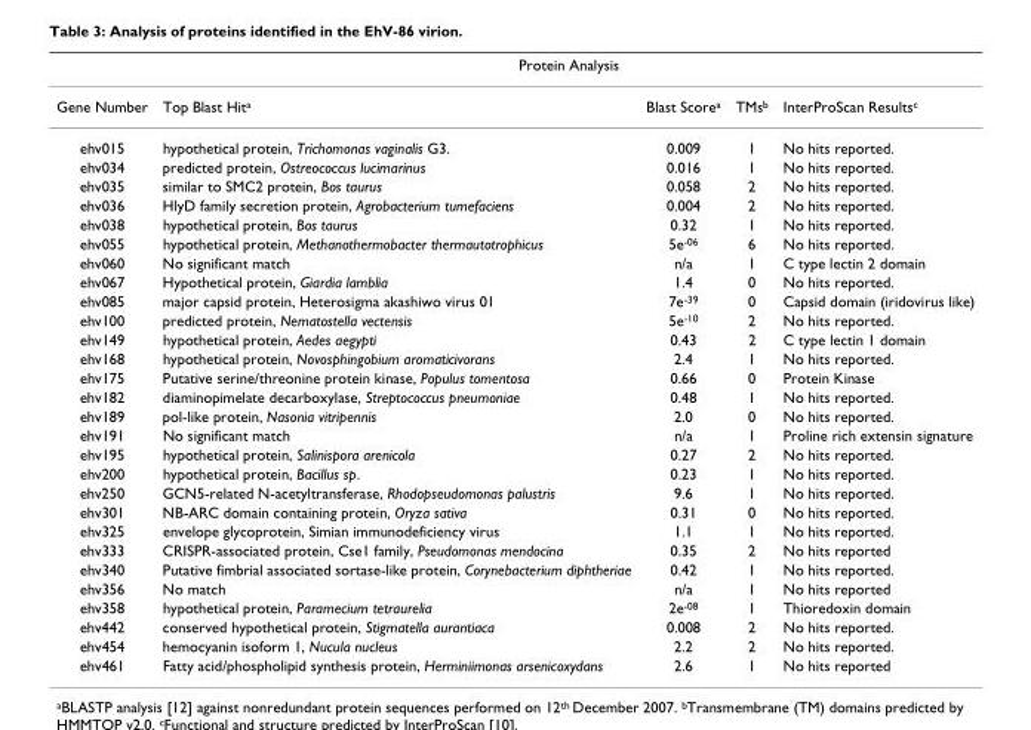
<table><thead><tr><td rowspan="2">Gene Number</td><td colspan="4">Protein Analysis</td></tr><tr><td>Top Blast Hit<sup>a</sup></td><td>Blast Score<sup>a</sup></td><td>TMs<sup>b</sup></td><td>InterProScan Results<sup>c</sup></td></tr></thead><tbody><tr><td>ehv015</td><td>hypothetical protein, Trichomonas vaginalis G3.</td><td>0.009</td><td>1</td><td>No hits reported.</td></tr><tr><td>ehv034</td><td>predicted protein, Ostreococcus lucimarinus</td><td>0.016</td><td>1</td><td>No hits reported.</td></tr><tr><td>ehv035</td><td>similar to SMC2 protein, Bos taurus</td><td>0.058</td><td>2</td><td>No hits reported.</td></tr><tr><td>ehv036</td><td>HlyD family secretion protein, Agrobacterium tumefaciens</td><td>0.004</td><td>2</td><td>No hits reported.</td></tr><tr><td>ehv038</td><td>hypothetical protein, Bos taurus</td><td>0.32</td><td>1</td><td>No hits reported.</td></tr><tr><td>ehv055</td><td>hypothetical protein, Methanothermobacter thermautotrophicus</td><td>5e<sup>-06</sup></td><td>6</td><td>No hits reported.</td></tr><tr><td>ehv060</td><td>No significant match</td><td>n/a</td><td>1</td><td>C type lectin 2 domain</td></tr><tr><td>ehv067</td><td>Hypothetical protein, Giardia lamblia</td><td>1.4</td><td>0</td><td>No hits reported.</td></tr><tr><td>ehv085</td><td>major capsid protein, Heterosigma akashiwo virus 01</td><td>7e<sup>-39</sup></td><td>0</td><td>Capsid domain (iridovirus like)</td></tr><tr><td>ehv100</td><td>predicted protein, Nematostella vectensis</td><td>5e<sup>-10</sup></td><td>2</td><td>No hits reported.</td></tr><tr><td>ehv149</td><td>hypothetical protein, Aedes aegypti</td><td>0.43</td><td>2</td><td>C type lectin 1 domain</td></tr><tr><td>ehv168</td><td>hypothetical protein, Novosphingobium aromaticivorans</td><td>2.4</td><td>1</td><td>No hits reported.</td></tr><tr><td>ehv175</td><td>Putative serine/threonine protein kinase, Populus tomentosa</td><td>0.66</td><td>0</td><td>Protein Kinase</td></tr><tr><td>ehv182</td><td>diaminopimelate decarboxylase, Streptococcus pneumoniae</td><td>0.48</td><td>1</td><td>No hits reported.</td></tr><tr><td>ehv189</td><td>pol-like protein, Nasonia vitripennis</td><td>2.0</td><td>0</td><td>No hits reported.</td></tr><tr><td>ehv191</td><td>No significant match</td><td>n/a</td><td>1</td><td>Proline rich extensin signature</td></tr><tr><td>ehv195</td><td>hypothetical protein, Salinispora arenicola</td><td>0.27</td><td>2</td><td>No hits reported.</td></tr><tr><td>ehv200</td><td>hypothetical protein, Bacillus sp.</td><td>0.23</td><td>1</td><td>No hits reported.</td></tr><tr><td>ehv250</td><td>GCN5-related N-acetyltransferase, Rhodopseudomonas palustris</td><td>9.6</td><td>1</td><td>No hits reported.</td></tr><tr><td>ehv301</td><td>NB-ARC domain containing protein, Oryza sativa</td><td>0.31</td><td>0</td><td>No hits reported.</td></tr><tr><td>ehv325</td><td>envelope glycoprotein, Simian immunodeficiency virus</td><td>1.1</td><td>1</td><td>No hits reported.</td></tr><tr><td>ehv333</td><td>CRISPR-associated protein, Cse1 family, Pseudomonas mendocina</td><td>0.35</td><td>2</td><td>No hits reported</td></tr><tr><td>ehv340</td><td>Putative fimbrial associated sortase-like protein, Corynebacterium diphtheriae</td><td>0.42</td><td>1</td><td>No hits reported.</td></tr><tr><td>ehv356</td><td>No match</td><td>n/a</td><td>1</td><td>No hits reported</td></tr><tr><td>ehv358</td><td>hypothetical protein, Paramecium tetraurelia</td><td>2e<sup>-08</sup></td><td>1</td><td>Thioredoxin domain</td></tr><tr><td>ehv442</td><td>conserved hypothetical protein, Stigmatella aurantiaca</td><td>0.008</td><td>2</td><td>No hits reported.</td></tr><tr><td>ehv454</td><td>hemocyanin isoform 1, Nucula nucleus</td><td>2.2</td><td>2</td><td>No hits reported.</td></tr><tr><td>ehv461</td><td>Fatty acid/phospholipid synthesis protein, Herminiimonas arsenicoxydans</td><td>2.6</td><td>1</td><td>No hits reported</td></tr></tbody></table>